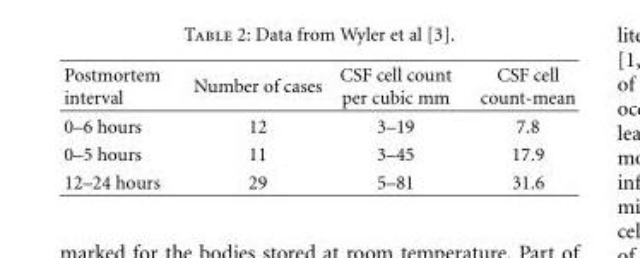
<table><thead><tr><td>Postmortem interval</td><td>Number of cases</td><td>CSF cell count per cubic mm</td><td>CSF cell count-mean</td></tr></thead><tbody><tr><td>0–6 hours</td><td>12</td><td>3–19</td><td>7.8</td></tr><tr><td>0–5 hours</td><td>11</td><td>3–45</td><td>17.9</td></tr><tr><td>12–24 hours</td><td>29</td><td>5–81</td><td>31.6</td></tr></tbody></table>